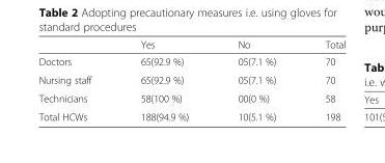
<table><thead><tr><td></td><td>Yes</td><td>No</td><td>Total</td></tr></thead><tbody><tr><td>Doctors</td><td>65(92.9 %)</td><td>05(7.1 %)</td><td>70</td></tr><tr><td>Nursing staff</td><td>65(92.9 %)</td><td>05(7.1 %)</td><td>70</td></tr><tr><td>Technicians</td><td>58(100 %)</td><td>00(0 %)</td><td>58</td></tr><tr><td>Total HCWs</td><td>188(94.9 %)</td><td>10(5.1 %)</td><td>198</td></tr></tbody></table>